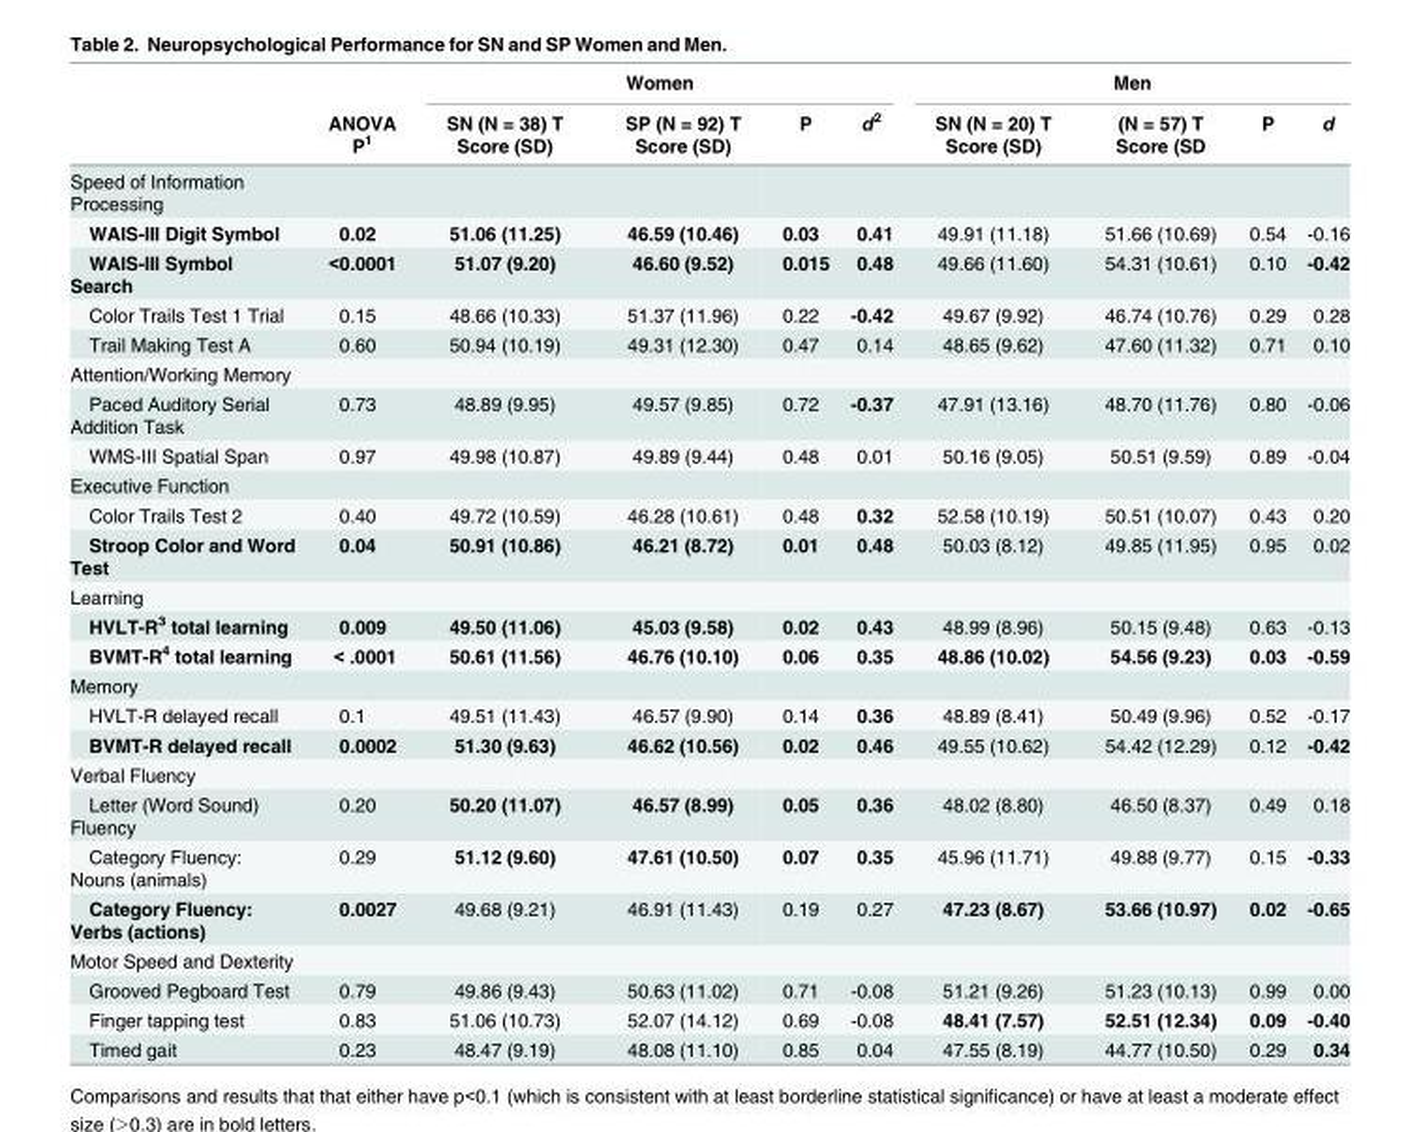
<table><thead><tr><td rowspan="2"></td><td rowspan="2">ANOVA P<sup>1</sup></td><td colspan="4">Women</td><td colspan="4">Men</td></tr><tr><td>SN (N = 38) T Score (SD)</td><td>SP (N = 92) T Score (SD)</td><td>P</td><td>d<sup>2</sup></td><td>SN (N = 20) T Score (SD)</td><td>(N = 57) T Score (SD</td><td>P</td><td>d</td></tr></thead><tbody><tr><td colspan="10">Speed of Information Processing</td></tr><tr><td>WAIS-III Digit Symbol</td><td>0.02</td><td>51.06 (11.25)</td><td>46.59 (10.46)</td><td>0.03</td><td>0.41</td><td>49.91 (11.18)</td><td>51.66 (10.69)</td><td>0.54</td><td>-0.16</td></tr><tr><td>WAIS-III Symbol Search</td><td>&lt;0.0001</td><td>51.07 (9.20)</td><td>46.60 (9.52)</td><td>0.015</td><td>0.48</td><td>49.66 (11.60)</td><td>54.31 (10.61)</td><td>0.10</td><td>-0.42</td></tr><tr><td>Color Trails Test 1 Trial</td><td>0.15</td><td>48.66 (10.33)</td><td>51.37 (11.96)</td><td>0.22</td><td>-0.42</td><td>49.67 (9.92)</td><td>46.74 (10.76)</td><td>0.29</td><td>0.28</td></tr><tr><td>Trail Making Test A</td><td>0.60</td><td>50.94 (10.19)</td><td>49.31 (12.30)</td><td>0.47</td><td>0.14</td><td>48.65 (9.62)</td><td>47.60 (11.32)</td><td>0.71</td><td>0.10</td></tr><tr><td colspan="10">Attention/Working Memory</td></tr><tr><td>Paced Auditory Serial Addition Task</td><td>0.73</td><td>48.89 (9.95)</td><td>49.57 (9.85)</td><td>0.72</td><td>-0.37</td><td>47.91 (13.16)</td><td>48.70 (11.76)</td><td>0.80</td><td>-0.06</td></tr><tr><td>WMS-III Spatial Span</td><td>0.97</td><td>49.98 (10.87)</td><td>49.89 (9.44)</td><td>0.48</td><td>0.01</td><td>50.16 (9.05)</td><td>50.51 (9.59)</td><td>0.89</td><td>-0.04</td></tr><tr><td colspan="10">Executive Function</td></tr><tr><td>Color Trails Test 2</td><td>0.40</td><td>49.72 (10.59)</td><td>46.28 (10.61)</td><td>0.48</td><td>0.32</td><td>52.58 (10.19)</td><td>50.51 (10.07)</td><td>0.43</td><td>0.20</td></tr><tr><td>Stroop Color and Word Test</td><td>0.04</td><td>50.91 (10.86)</td><td>46.21 (8.72)</td><td>0.01</td><td>0.48</td><td>50.03 (8.12)</td><td>49.85 (11.95)</td><td>0.95</td><td>0.02</td></tr><tr><td colspan="10">Learning</td></tr><tr><td>HVLT-R<sup>3</sup> total learning</td><td>0.009</td><td>49.50 (11.06)</td><td>45.03 (9.58)</td><td>0.02</td><td>0.43</td><td>48.99 (8.96)</td><td>50.15 (9.48)</td><td>0.63</td><td>-0.13</td></tr><tr><td>BVMT-R<sup>4</sup> total learning</td><td>&lt; .0001</td><td>50.61 (11.56)</td><td>46.76 (10.10)</td><td>0.06</td><td>0.35</td><td>48.86 (10.02)</td><td>54.56 (9.23)</td><td>0.03</td><td>-0.59</td></tr><tr><td colspan="10">Memory</td></tr><tr><td>HVLT-R delayed recall</td><td>0.1</td><td>49.51 (11.43)</td><td>46.57 (9.90)</td><td>0.14</td><td>0.36</td><td>48.89 (8.41)</td><td>50.49 (9.96)</td><td>0.52</td><td>-0.17</td></tr><tr><td>BVMT-R delayed recall</td><td>0.0002</td><td>51.30 (9.63)</td><td>46.62 (10.56)</td><td>0.02</td><td>0.46</td><td>49.55 (10.62)</td><td>54.42 (12.29)</td><td>0.12</td><td>-0.42</td></tr><tr><td colspan="10">Verbal Fluency</td></tr><tr><td>Letter (Word Sound) Fluency</td><td>0.20</td><td>50.20 (11.07)</td><td>46.57 (8.99)</td><td>0.05</td><td>0.36</td><td>48.02 (8.80)</td><td>46.50 (8.37)</td><td>0.49</td><td>0.18</td></tr><tr><td>Category Fluency: Nouns (animals)</td><td>0.29</td><td>51.12 (9.60)</td><td>47.61 (10.50)</td><td>0.07</td><td>0.35</td><td>45.96 (11.71)</td><td>49.88 (9.77)</td><td>0.15</td><td>-0.33</td></tr><tr><td>Category Fluency: Verbs (actions)</td><td>0.0027</td><td>49.68 (9.21)</td><td>46.91 (11.43)</td><td>0.19</td><td>0.27</td><td>47.23 (8.67)</td><td>53.66 (10.97)</td><td>0.02</td><td>-0.65</td></tr><tr><td colspan="10">Motor Speed and Dexterity</td></tr><tr><td>Grooved Pegboard Test</td><td>0.79</td><td>49.86 (9.43)</td><td>50.63 (11.02)</td><td>0.71</td><td>-0.08</td><td>51.21 (9.26)</td><td>51.23 (10.13)</td><td>0.99</td><td>0.00</td></tr><tr><td>Finger tapping test</td><td>0.83</td><td>51.06 (10.73)</td><td>52.07 (14.12)</td><td>0.69</td><td>-0.08</td><td>48.41 (7.57)</td><td>52.51 (12.34)</td><td>0.09</td><td>-0.40</td></tr><tr><td>Timed gait</td><td>0.23</td><td>48.47 (9.19)</td><td>48.08 (11.10)</td><td>0.85</td><td>0.04</td><td>47.55 (8.19)</td><td>44.77 (10.50)</td><td>0.29</td><td>0.34</td></tr></tbody></table>